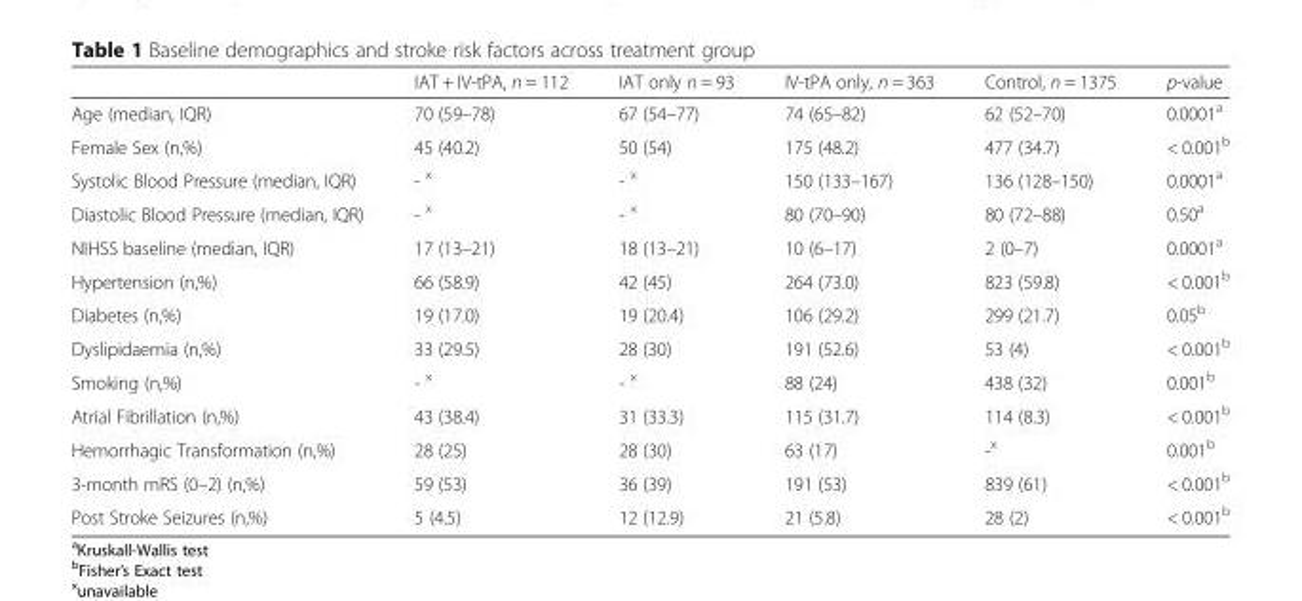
<table><thead><tr><td></td><td>IAT + IV-tPA, n = 112</td><td>IAT only n = 93</td><td>IV-tPA only, n = 363</td><td>Control, n = 1375</td><td>p-value</td></tr></thead><tbody><tr><td>Age (median, IQR)</td><td>70 (59–78)</td><td>67 (54–77)</td><td>74 (65–82)</td><td>62 (52–70)</td><td>0.0001<sup>a</sup></td></tr><tr><td>Female Sex (n,%)</td><td>45 (40.2)</td><td>50 (54)</td><td>175 (48.2)</td><td>477 (34.7)</td><td>&lt; 0.001<sup>b</sup></td></tr><tr><td>Systolic Blood Pressure (median, IQR)</td><td>- <sup>x</sup></td><td>- <sup>x</sup></td><td>150 (133–167)</td><td>136 (128–150)</td><td>0.0001<sup>a</sup></td></tr><tr><td>Diastolic Blood Pressure (median, IQR)</td><td>- <sup>x</sup></td><td>- <sup>x</sup></td><td>80 (70–90)</td><td>80 (72–88)</td><td>0.50<sup>a</sup></td></tr><tr><td>NIHSS baseline (median, IQR)</td><td>17 (13–21)</td><td>18 (13–21)</td><td>10 (6–17)</td><td>2 (0–7)</td><td>0.0001<sup>a</sup></td></tr><tr><td>Hypertension (n,%)</td><td>66 (58.9)</td><td>42 (45)</td><td>264 (73.0)</td><td>823 (59.8)</td><td>&lt; 0.001<sup>b</sup></td></tr><tr><td>Diabetes (n,%)</td><td>19 (17.0)</td><td>19 (20.4)</td><td>106 (29.2)</td><td>299 (21.7)</td><td>0.05<sup>b</sup></td></tr><tr><td>Dyslipidaemia (n,%)</td><td>33 (29.5)</td><td>28 (30)</td><td>191 (52.6)</td><td>53 (4)</td><td>&lt; 0.001<sup>b</sup></td></tr><tr><td>Smoking (n,%)</td><td>- <sup>x</sup></td><td>- <sup>x</sup></td><td>88 (24)</td><td>438 (32)</td><td>0.001<sup>b</sup></td></tr><tr><td>Atrial Fibrillation (n,%)</td><td>43 (38.4)</td><td>31 (33.3)</td><td>115 (31.7)</td><td>114 (8.3)</td><td>&lt; 0.001<sup>b</sup></td></tr><tr><td>Hemorrhagic Transformation (n,%)</td><td>28 (25)</td><td>28 (30)</td><td>63 (17)</td><td>-<sup>x</sup></td><td>0.001<sup>b</sup></td></tr><tr><td>3-month mRS (0–2) (n,%)</td><td>59 (53)</td><td>36 (39)</td><td>191 (53)</td><td>839 (61)</td><td>&lt; 0.001<sup>b</sup></td></tr><tr><td>Post Stroke Seizures (n,%)</td><td>5 (4.5)</td><td>12 (12.9)</td><td>21 (5.8)</td><td>28 (2)</td><td>&lt; 0.001<sup>b</sup></td></tr></tbody></table>